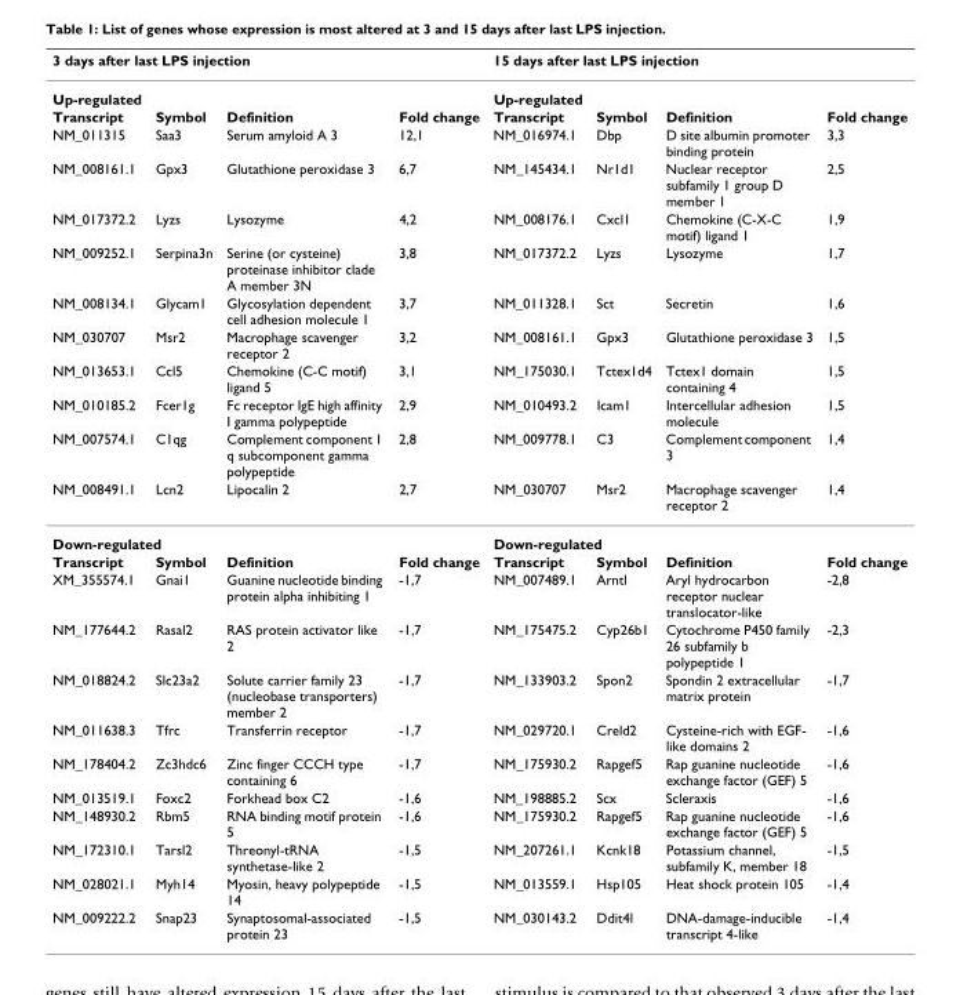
<table><thead><tr><td colspan="4">3 days after last LPS injection</td><td colspan="4">15 days after last LPS injection</td></tr><tr><td>Up-regulated</td><td></td><td></td><td></td><td>Up-regulated</td><td></td><td></td><td></td></tr></thead><tbody><tr><td>Transcript</td><td>Symbol</td><td>Definition</td><td>Fold change</td><td>Transcript</td><td>Symbol</td><td>Definition</td><td>Fold change</td></tr><tr><td>NM_011315</td><td>Saa3</td><td>Serum amyloid A 3</td><td>12,1</td><td>NM_016974.1</td><td>Dbp</td><td>D site albumin promoter binding protein</td><td>3,3</td></tr><tr><td>NM_008161.1</td><td>Gpx3</td><td>Glutathione peroxidase 3</td><td>6,7</td><td>NM_145434.1</td><td>Nr1d1</td><td>Nuclear receptor subfamily 1 group D member 1</td><td>2,5</td></tr><tr><td>NM_017372.2</td><td>Lyzs</td><td>Lysozyme</td><td>4,2</td><td>NM_008176.1</td><td>Cxcl1</td><td>Chemokine (C-X-C motif) ligand 1</td><td>1,9</td></tr><tr><td>NM_009252.1</td><td>Serpina3n</td><td>Serine (or cysteine) proteinase inhibitor clade A member 3N</td><td>3,8</td><td>NM_017372.2</td><td>Lyzs</td><td>Lysozyme</td><td>1,7</td></tr><tr><td>NM_008134.1</td><td>Glycam1</td><td>Glycosylation dependent cell adhesion molecule 1</td><td>3,7</td><td>NM_011328.1</td><td>Sct</td><td>Secretin</td><td>1,6</td></tr><tr><td>NM_030707</td><td>Msr2</td><td>Macrophage scavenger receptor 2</td><td>3,2</td><td>NM_008161.1</td><td>Gpx3</td><td>Glutathione peroxidase 3</td><td>1,5</td></tr><tr><td>NM_013653.1</td><td>Ccl5</td><td>Chemokine (C-C motif) ligand 5</td><td>3,1</td><td>NM_175030.1</td><td>Tctex1d4</td><td>Tctex1 domain containing 4</td><td>1,5</td></tr><tr><td>NM_010185.2</td><td>Fcer1g</td><td>Fc receptor IgE high affinity I gamma polypeptide</td><td>2,9</td><td>NM_010493.2</td><td>Icam1</td><td>Intercellular adhesion molecule</td><td>1,5</td></tr><tr><td>NM_007574.1</td><td>C1qg</td><td>Complement component 1 q subcomponent gamma polypeptide</td><td>2,8</td><td>NM_009778.1</td><td>C3</td><td>Complement component 3</td><td>1,4</td></tr><tr><td>NM_008491.1</td><td>Lcn2</td><td>Lipocalin 2</td><td>2,7</td><td>NM_030707</td><td>Msr2</td><td>Macrophage scavenger receptor 2</td><td>1,4</td></tr><tr><td colspan="4">Down-regulated</td><td colspan="4">Down-regulated</td></tr><tr><td>Transcript</td><td>Symbol</td><td>Definition</td><td>Fold change</td><td>Transcript</td><td>Symbol</td><td>Definition</td><td>Fold change</td></tr><tr><td>XM_355574.1</td><td>Gnai1</td><td>Guanine nucleotide binding protein alpha inhibiting 1</td><td>-1,7</td><td>NM_007489.1</td><td>Arntl</td><td>Aryl hydrocarbon receptor nuclear translocator-like</td><td>-2,8</td></tr><tr><td>NM_177644.2</td><td>Rasal2</td><td>RAS protein activator like 2</td><td>-1,7</td><td>NM_175475.2</td><td>Cyp26b1</td><td>Cytochrome P450 family 26 subfamily b polypeptide 1</td><td>-2,3</td></tr><tr><td>NM_018824.2</td><td>Slc23a2</td><td>Solute carrier family 23 (nucleobase transporters) member 2</td><td>-1,7</td><td>NM_133903.2</td><td>Spon2</td><td>Spondin 2 extracellular matrix protein</td><td>-1,7</td></tr><tr><td>NM_011638.3</td><td>Tfrc</td><td>Transferrin receptor</td><td>-1,7</td><td>NM_029720.1</td><td>Creld2</td><td>Cysteine-rich with EGF- like domains 2</td><td>-1,6</td></tr><tr><td>NM_178404.2</td><td>Zc3hdc6</td><td>Zinc finger CCCH type containing 6</td><td>-1,7</td><td>NM_175930.2</td><td>Rapgef5</td><td>Rap guanine nucleotide exchange factor (GEF) 5</td><td>-1,6</td></tr><tr><td>NM_013519.1</td><td>Foxc2</td><td>Forkhead box C2</td><td>-1,6</td><td>NM_198885.2</td><td>Scx</td><td>Scleraxis</td><td>-1,6</td></tr><tr><td>NM_148930.2</td><td>Rbm5</td><td>RNA binding motif protein 5</td><td>-1,6</td><td>NM_175930.2</td><td>Rapgef5</td><td>Rap guanine nucleotide exchange factor (GEF) 5</td><td>-1,6</td></tr><tr><td>NM_172310.1</td><td>Tarsl2</td><td>Threonyl-tRNA synthetase-like 2</td><td>-1,5</td><td>NM_207261.1</td><td>Kcnk18</td><td>Potassium channel, subfamily K, member 18</td><td>-1,5</td></tr><tr><td>NM_028021.1</td><td>Myh14</td><td>Myosin, heavy polypeptide 14</td><td>-1,5</td><td>NM_013559.1</td><td>Hsp105</td><td>Heat shock protein 105</td><td>-1,4</td></tr><tr><td>NM_009222.2</td><td>Snap23</td><td>Synaptosomal-associated protein 23</td><td>-1,5</td><td>NM_030143.2</td><td>Ddit4l</td><td>DNA-damage-inducible transcript 4-like</td><td>-1,4</td></tr></tbody></table>